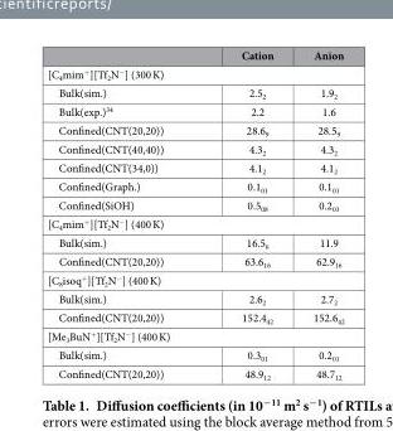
<table><thead><tr><td></td><td>Cation</td><td>Anion</td></tr></thead><tbody><tr><td colspan="3">[C<sub>4</sub>mim<sup>+</sup>][Tf<sub>2</sub>N<sup>−</sup>] (300 K)</td></tr><tr><td>Bulk(sim.)</td><td>2.5<sub>2</sub></td><td>1.9<sub>2</sub></td></tr><tr><td>Bulk(exp.)<sup>34</sup></td><td>2.2</td><td>1.6</td></tr><tr><td>Confined(CNT(20,20))</td><td>28.6<sub>9</sub></td><td>28.5<sub>9</sub></td></tr><tr><td>Confined(CNT(40,40))</td><td>4.3<sub>2</sub></td><td>4.3<sub>2</sub></td></tr><tr><td>Confined(CNT(34,0))</td><td>4.1<sub>2</sub></td><td>4.1<sub>2</sub></td></tr><tr><td>Confined(Graph.)</td><td>0.1<sub>01</sub></td><td>0.1<sub>01</sub></td></tr><tr><td>Confined(SiOH)</td><td>0.5<sub>08</sub></td><td>0.2<sub>03</sub></td></tr><tr><td colspan="3">[C<sub>4</sub>mim<sup>+</sup>][Tf<sub>2</sub>N<sup>−</sup>] (400 K)</td></tr><tr><td>Bulk(sim.)</td><td>16.5<sub>6</sub></td><td>11.9</td></tr><tr><td>Confined(CNT(20,20))</td><td>63.6<sub>16</sub></td><td>62.9<sub>16</sub></td></tr><tr><td colspan="3">[C<sub>8</sub>isoq<sup>+</sup>][Tf<sub>2</sub>N<sup>−</sup>] (400 K)</td></tr><tr><td>Bulk(sim.)</td><td>2.6<sub>2</sub></td><td>2.7<sub>2</sub></td></tr><tr><td>Confined(CNT(20,20))</td><td>152.4<sub>42</sub></td><td>152.6<sub>42</sub></td></tr><tr><td colspan="3">[Me<sub>3</sub>BuN<sup>+</sup>][Tf<sub>2</sub>N<sup>−</sup>] (400 K)</td></tr><tr><td>Bulk(sim.)</td><td>0.3<sub>01</sub></td><td>0.2<sub>01</sub></td></tr><tr><td>Confined(CNT(20,20))</td><td>48.9<sub>12</sub></td><td>48.7<sub>12</sub></td></tr></tbody></table>